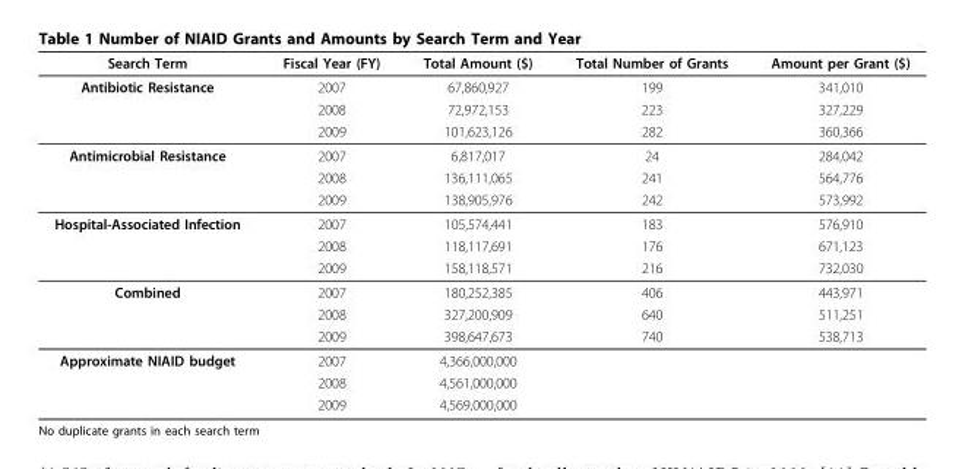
<table><thead><tr><td>Search Term</td><td>Fiscal Year (FY)</td><td>Total Amount ($)</td><td>Total Number of Grants</td><td>Amount per Grant ($)</td></tr></thead><tbody><tr><td rowspan="3">Antibiotic Resistance</td><td>2007</td><td>67,860,927</td><td>199</td><td>341,010</td></tr><tr><td>2008</td><td>72,972,153</td><td>223</td><td>327,229</td></tr><tr><td>2009</td><td>101,623,126</td><td>282</td><td>360,366</td></tr><tr><td rowspan="3">Antimicrobial Resistance</td><td>2007</td><td>6,817,017</td><td>24</td><td>284,042</td></tr><tr><td>2008</td><td>136,111,065</td><td>241</td><td>564,776</td></tr><tr><td>2009</td><td>138,905,976</td><td>242</td><td>573,992</td></tr><tr><td rowspan="3">Hospital-Associated Infection</td><td>2007</td><td>105,574,441</td><td>183</td><td>576,910</td></tr><tr><td>2008</td><td>118,117,691</td><td>176</td><td>671,123</td></tr><tr><td>2009</td><td>158,118,571</td><td>216</td><td>732,030</td></tr><tr><td rowspan="3">Combined</td><td>2007</td><td>180,252,385</td><td>406</td><td>443,971</td></tr><tr><td>2008</td><td>327,200,909</td><td>640</td><td>511,251</td></tr><tr><td>2009</td><td>398,647,673</td><td>740</td><td>538,713</td></tr><tr><td rowspan="3">Approximate NIAID budget</td><td>2007</td><td>4,366,000,000</td><td colspan="2"></td></tr><tr><td>2008</td><td>4,561,000,000</td><td colspan="2"></td></tr><tr><td>2009</td><td>4,569,000,000</td><td colspan="2"></td></tr></tbody></table>